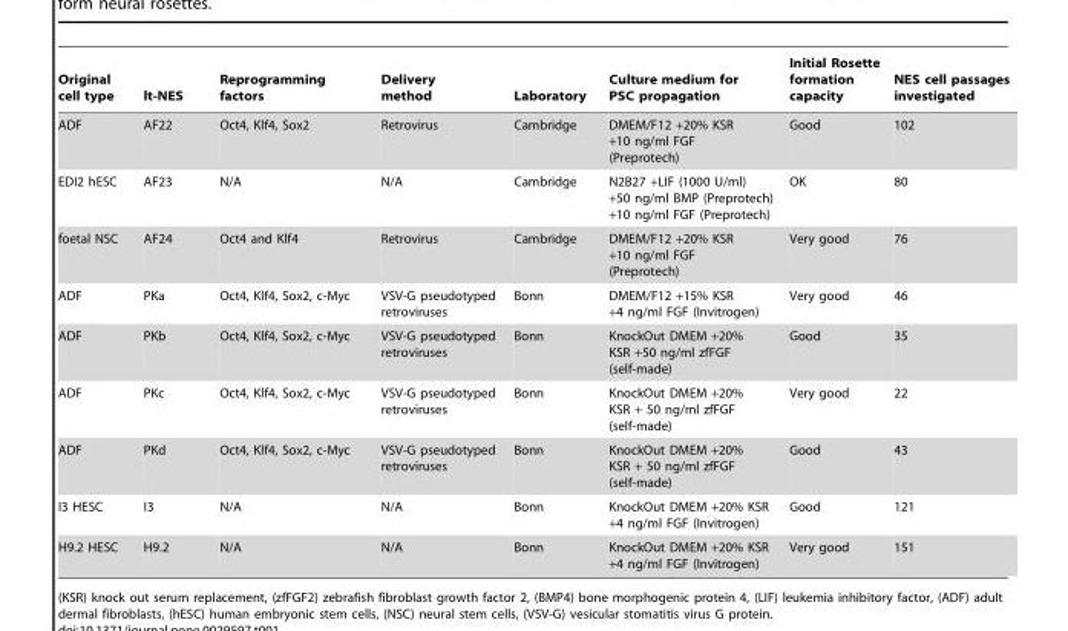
<table><thead><tr><td>Original cell type</td><td>lt-NES</td><td>Reprogramming factors</td><td>Delivery method</td><td>Laboratory</td><td>Culture medium for PSC propagation</td><td>Initial Rosette formation capacity</td><td>NES cell passages investigated</td></tr></thead><tbody><tr><td>ADF</td><td>AF22</td><td>Oct4, Klf4, Sox2</td><td>Retrovirus</td><td>Cambridge</td><td>DMEM/F12 +20% KSR +10 ng/ml FGF (Preprotech)</td><td>Good</td><td>102</td></tr><tr><td>EDI2 hESC</td><td>AF23</td><td>N/A</td><td>N/A</td><td>Cambridge</td><td>N2B27 +LIF (1000 U/ml) +50 ng/ml BMP (Preprotech) +10 ng/ml FGF (Preprotech)</td><td>OK</td><td>80</td></tr><tr><td>foetal NSC</td><td>AF24</td><td>Oct4 and Klf4</td><td>Retrovirus</td><td>Cambridge</td><td>DMEM/F12 +20% KSR +10 ng/ml FGF (Preprotech)</td><td>Very good</td><td>76</td></tr><tr><td>ADF</td><td>PKa</td><td>Oct4, Klf4, Sox2, c-Myc</td><td>VSV-G pseudotyped retroviruses</td><td>Bonn</td><td>DMEM/F12 +15% KSR +4 ng/ml FGF (Invitrogen)</td><td>Very good</td><td>46</td></tr><tr><td>ADF</td><td>PKb</td><td>Oct4, Klf4, Sox2, c-Myc</td><td>VSV-G pseudotyped retroviruses</td><td>Bonn</td><td>KnockOut DMEM +20% KSR +50 ng/ml zfFGF (self-made)</td><td>Good</td><td>35</td></tr><tr><td>ADF</td><td>PKc</td><td>Oct4, Klf4, Sox2, c-Myc</td><td>VSV-G pseudotyped retroviruses</td><td>Bonn</td><td>KnockOut DMEM +20% KSR + 50 ng/ml zfFGF (self-made)</td><td>Very good</td><td>22</td></tr><tr><td>ADF</td><td>PKd</td><td>Oct4, Klf4, Sox2, c-Myc</td><td>VSV-G pseudotyped retroviruses</td><td>Bonn</td><td>KnockOut DMEM +20% KSR + 50 ng/ml zfFGF (self-made)</td><td>Good</td><td>43</td></tr><tr><td>I3 HESC</td><td>I3</td><td>N/A</td><td>N/A</td><td>Bonn</td><td>KnockOut DMEM +20% KSR +4 ng/ml FGF (Invitrogen)</td><td>Good</td><td>121</td></tr><tr><td>H9.2 HESC</td><td>H9.2</td><td>N/A</td><td>N/A</td><td>Bonn</td><td>KnockOut DMEM +20% KSR +4 ng/ml FGF (Invitrogen)</td><td>Very good</td><td>151</td></tr></tbody></table>